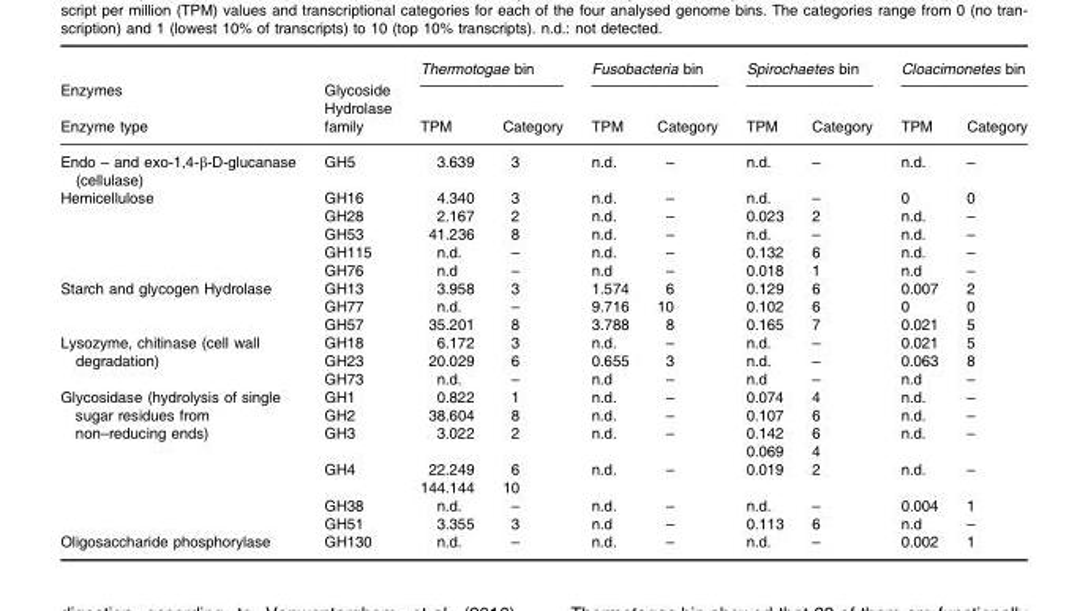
<table><thead><tr><td rowspan="2">Enzymes Enzyme type</td><td rowspan="2">Glycoside Hydrolase family</td><td colspan="2">Thermotogae bin</td><td colspan="2">Fusobacteria bin</td><td colspan="2">Spirochaetes bin</td><td colspan="2">Cloacimonetes bin</td></tr><tr><td>TPM</td><td>Category</td><td>TPM</td><td>Category</td><td>TPM</td><td>Category</td><td>TPM</td><td>Category</td></tr></thead><tbody><tr><td>Endo – and exo-1,4-β-D-glucanase (cellulase)</td><td>GH5</td><td>3.639</td><td>3</td><td>n.d.</td><td>–</td><td>n.d.</td><td>–</td><td>n.d.</td><td>–</td></tr><tr><td rowspan="5">Hemicellulose</td><td>GH16</td><td>4.340</td><td>3</td><td>n.d.</td><td>–</td><td>n.d.</td><td>–</td><td>0</td><td>0</td></tr><tr><td>GH28</td><td>2.167</td><td>2</td><td>n.d.</td><td>–</td><td>0.023</td><td>2</td><td>n.d.</td><td>–</td></tr><tr><td>GH53</td><td>41.236</td><td>8</td><td>n.d.</td><td>–</td><td>n.d.</td><td>–</td><td>n.d.</td><td>–</td></tr><tr><td>GH115</td><td>n.d.</td><td>–</td><td>n.d.</td><td>–</td><td>0.132</td><td>6</td><td>n.d.</td><td>–</td></tr><tr><td>GH76</td><td>n.d</td><td>–</td><td>n.d</td><td>–</td><td>0.018</td><td>1</td><td>n.d</td><td>–</td></tr><tr><td rowspan="3">Starch and glycogen Hydrolase</td><td>GH13</td><td>3.958</td><td>3</td><td>1.574</td><td>6</td><td>0.129</td><td>6</td><td>0.007</td><td>2</td></tr><tr><td>GH77</td><td>n.d.</td><td>–</td><td>9.716</td><td>10</td><td>0.102</td><td>6</td><td>0</td><td>0</td></tr><tr><td>GH57</td><td>35.201</td><td>8</td><td>3.788</td><td>8</td><td>0.165</td><td>7</td><td>0.021</td><td>5</td></tr><tr><td rowspan="3">Lysozyme, chitinase (cell wall degradation)</td><td>GH18</td><td>6.172</td><td>3</td><td>n.d.</td><td>–</td><td>n.d.</td><td>–</td><td>0.021</td><td>5</td></tr><tr><td>GH23</td><td>20.029</td><td>6</td><td>0.655</td><td>3</td><td>n.d.</td><td>–</td><td>0.063</td><td>8</td></tr><tr><td>GH73</td><td>n.d.</td><td>–</td><td>n.d</td><td>–</td><td>n.d</td><td>–</td><td>n.d</td><td>–</td></tr><tr><td rowspan="8">Glycosidase (hydrolysis of single sugar residues from non–reducing ends)</td><td>GH1</td><td>0.822</td><td>1</td><td>n.d.</td><td>–</td><td>0.074</td><td>4</td><td>n.d.</td><td>–</td></tr><tr><td>GH2</td><td>38.604</td><td>8</td><td>n.d.</td><td>–</td><td>0.107</td><td>6</td><td>n.d.</td><td>–</td></tr><tr><td rowspan="2">GH3</td><td rowspan="2">3.022</td><td rowspan="2">2</td><td rowspan="2">n.d.</td><td rowspan="2">–</td><td>0.142</td><td>6</td><td rowspan="2">n.d.</td><td rowspan="2">–</td></tr><tr><td>0.069</td><td>4</td></tr><tr><td>GH4</td><td>22.249</td><td>6</td><td rowspan="2">n.d.</td><td rowspan="2">–</td><td rowspan="2">0.019</td><td rowspan="2">2</td><td rowspan="2">n.d.</td><td rowspan="2">–</td></tr><tr><td></td><td>144.144</td><td>10</td></tr><tr><td>GH38</td><td>n.d.</td><td>–</td><td>n.d.</td><td>–</td><td>n.d.</td><td>–</td><td>0.004</td><td>1</td></tr><tr><td>GH51</td><td>3.355</td><td>3</td><td>n.d</td><td>–</td><td>0.113</td><td>6</td><td>n.d</td><td>–</td></tr><tr><td>Oligosaccharide phosphorylase</td><td>GH130</td><td>n.d.</td><td>–</td><td>n.d.</td><td>–</td><td>n.d.</td><td>–</td><td>0.002</td><td>1</td></tr></tbody></table>